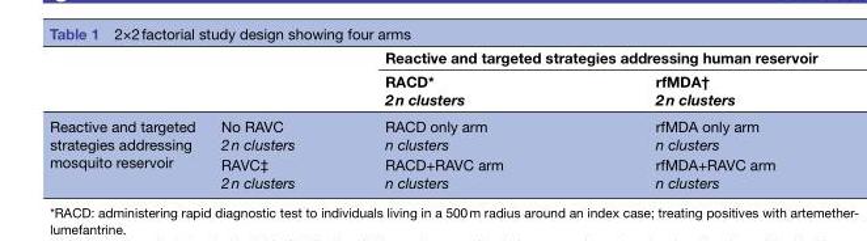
<table><thead><tr><td rowspan="2"></td><td rowspan="2"></td><td colspan="2">Reactive and targeted strategies addressing human reservoir</td></tr><tr><td>RACD* 2 n clusters</td><td>rfMDA† 2 n clusters</td></tr></thead><tbody><tr><td rowspan="2">Reactive and targeted strategies addressing mosquito reservoir</td><td>No RAVC 2 n clusters</td><td>RACD only arm n clusters</td><td>rfMDA only arm n clusters</td></tr><tr><td>RAVC‡ 2 n clusters</td><td>RACD+RAVC arm n clusters</td><td>rfMDA+RAVC arm n clusters</td></tr></tbody></table>